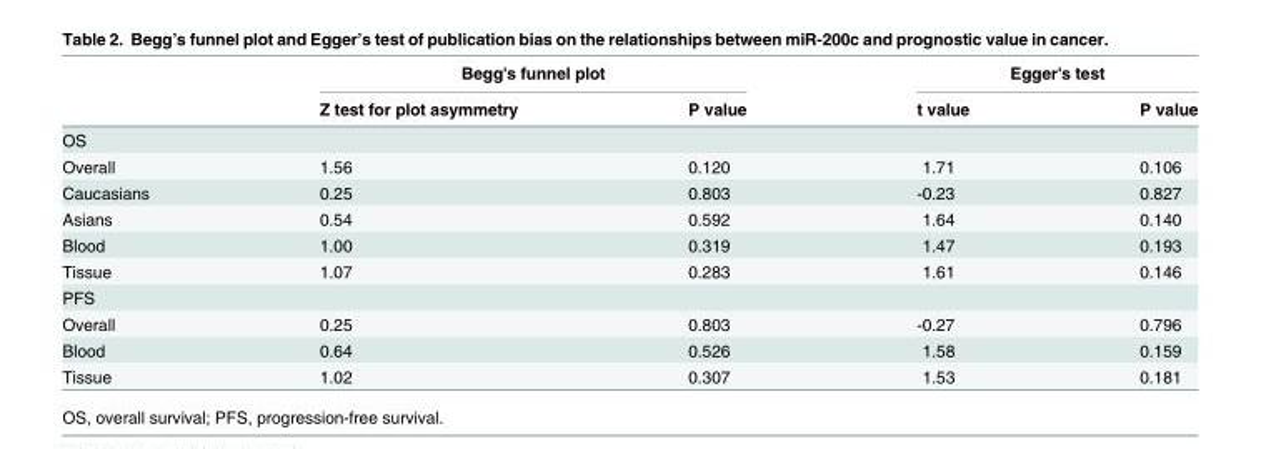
<table><thead><tr><td rowspan="2"></td><td colspan="2">Begg&#x27;s funnel plot</td><td colspan="2">Egger&#x27;s test</td></tr><tr><td>Z test for plot asymmetry</td><td>P value</td><td>t value</td><td>P value</td></tr></thead><tbody><tr><td colspan="5">OS</td></tr><tr><td>Overall</td><td>1.56</td><td>0.120</td><td>1.71</td><td>0.106</td></tr><tr><td>Caucasians</td><td>0.25</td><td>0.803</td><td>-0.23</td><td>0.827</td></tr><tr><td>Asians</td><td>0.54</td><td>0.592</td><td>1.64</td><td>0.140</td></tr><tr><td>Blood</td><td>1.00</td><td>0.319</td><td>1.47</td><td>0.193</td></tr><tr><td>Tissue</td><td>1.07</td><td>0.283</td><td>1.61</td><td>0.146</td></tr><tr><td colspan="5">PFS</td></tr><tr><td>Overall</td><td>0.25</td><td>0.803</td><td>-0.27</td><td>0.796</td></tr><tr><td>Blood</td><td>0.64</td><td>0.526</td><td>1.58</td><td>0.159</td></tr><tr><td>Tissue</td><td>1.02</td><td>0.307</td><td>1.53</td><td>0.181</td></tr></tbody></table>